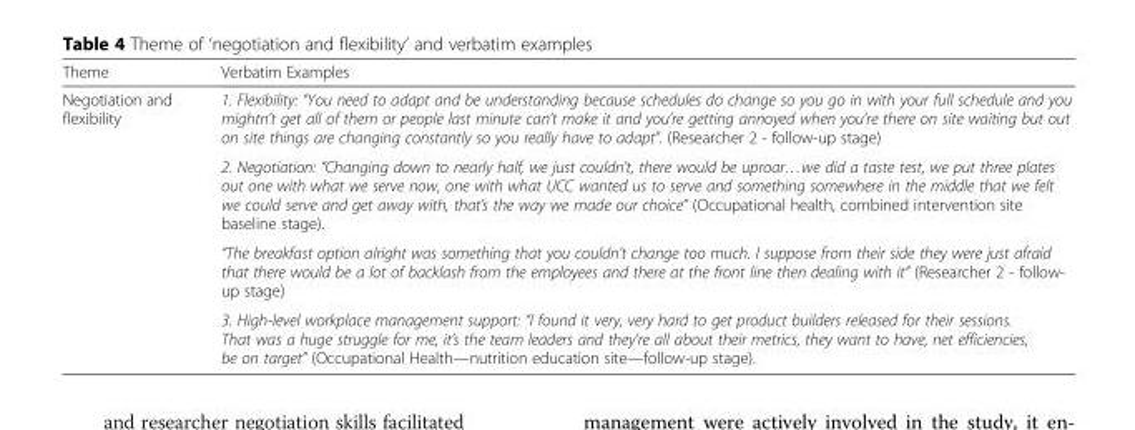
<table><thead><tr><td>Theme</td><td>Verbatim Examples</td></tr></thead><tbody><tr><td rowspan="4">Negotiation and flexibility</td><td>1. Flexibility: “You need to adapt and be understanding because schedules do change so you go in with your full schedule and you mightn’t get all of them or people last minute can’t make it and you’re getting annoyed when you’re there on site waiting but out on site things are changing constantly so you really have to adapt”. (Researcher 2 - follow-up stage)</td></tr><tr><td>2. Negotiation: “Changing down to nearly half, we just couldn’t, there would be uproar…we did a taste test, we put three plates out one with what we serve now, one with what UCC wanted us to serve and something somewhere in the middle that we felt we could serve and get away with, that’s the way we made our choice” (Occupational health, combined intervention site baseline stage).</td></tr><tr><td>“The breakfast option alright was something that you couldn’t change too much. I suppose from their side they were just afraid that there would be a lot of backlash from the employees and there at the front line then dealing with it” (Researcher 2 - follow- up stage)</td></tr><tr><td>3. High-level workplace management support: “I found it very, very hard to get product builders released for their sessions. That was a huge struggle for me, it’s the team leaders and they’re all about their metrics, they want to have, net efficiencies, be on target” (Occupational Health—nutrition education site—follow-up stage).</td></tr></tbody></table>